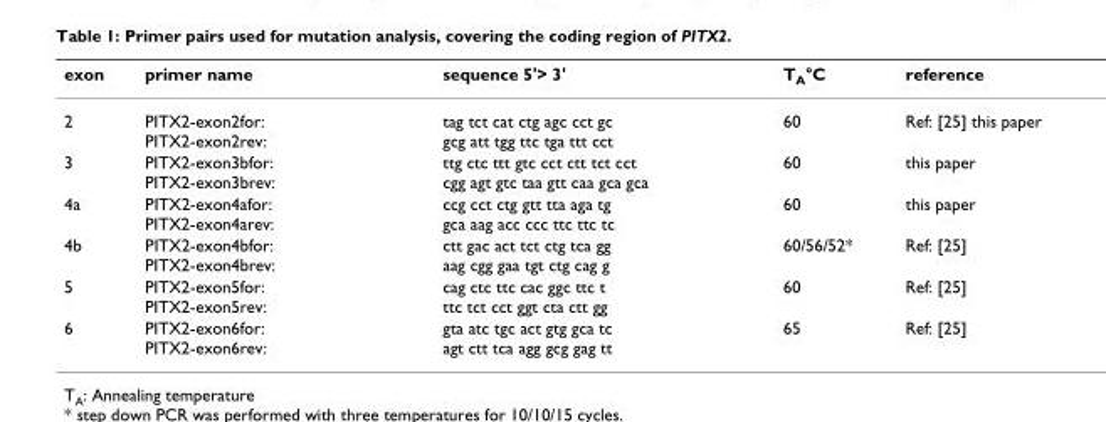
<table><thead><tr><td>exon</td><td>primer name</td><td>sequence 5&#x27;&gt; 3&#x27;</td><td>TA°C</td><td>reference</td></tr></thead><tbody><tr><td>2</td><td>PITX2-exon2for: PITX2-exon2rev:</td><td>tag tct cat ctg agc cct gc gcg att tgg ttc tga ttt cct</td><td>60</td><td>Ref: [25] this paper</td></tr><tr><td>3</td><td>PITX2-exon3bfor: PITX2-exon3brev:</td><td>ttg ctc ttt gtc cct ctt tct cct cgg agt gtc taa gtt caa gca gca</td><td>60</td><td>this paper</td></tr><tr><td>4a</td><td>PITX2-exon4afor: PITX2-exon4arev:</td><td>ccg cct ctg gtt tta aga tg gca aag acc ccc ttc ttc tc</td><td>60</td><td>this paper</td></tr><tr><td>4b</td><td>PITX2-exon4bfor: PITX2-exon4brev:</td><td>ctt gac act tct ctg tca gg aag cgg gaa tgt ctg cag g</td><td>60/56/52*</td><td>Ref: [25]</td></tr><tr><td>5</td><td>PITX2-exon5for: PITX2-exon5rev:</td><td>cag ctc ttc cac ggc ttc t ttc tct cct ggt cta ctt gg</td><td>60</td><td>Ref: [25]</td></tr><tr><td>6</td><td>PITX2-exon6for: PITX2-exon6rev:</td><td>gta atc tgc act gtg gca tc agt ctt tca agg gcg gag tt</td><td>65</td><td>Ref: [25]</td></tr></tbody></table>